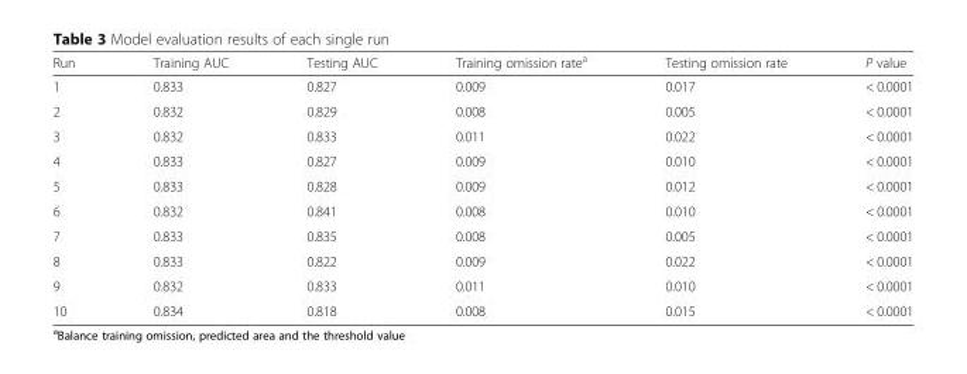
<table><thead><tr><td>Run</td><td>Training AUC</td><td>Testing AUC</td><td>Training omission rate<sup>a</sup></td><td>Testing omission rate</td><td>P value</td></tr></thead><tbody><tr><td>1</td><td>0.833</td><td>0.827</td><td>0.009</td><td>0.017</td><td>&lt; 0.0001</td></tr><tr><td>2</td><td>0.832</td><td>0.829</td><td>0.008</td><td>0.005</td><td>&lt; 0.0001</td></tr><tr><td>3</td><td>0.832</td><td>0.833</td><td>0.011</td><td>0.022</td><td>&lt; 0.0001</td></tr><tr><td>4</td><td>0.833</td><td>0.827</td><td>0.009</td><td>0.010</td><td>&lt; 0.0001</td></tr><tr><td>5</td><td>0.833</td><td>0.828</td><td>0.009</td><td>0.012</td><td>&lt; 0.0001</td></tr><tr><td>6</td><td>0.832</td><td>0.841</td><td>0.008</td><td>0.010</td><td>&lt; 0.0001</td></tr><tr><td>7</td><td>0.833</td><td>0.835</td><td>0.008</td><td>0.005</td><td>&lt; 0.0001</td></tr><tr><td>8</td><td>0.833</td><td>0.822</td><td>0.009</td><td>0.022</td><td>&lt; 0.0001</td></tr><tr><td>9</td><td>0.832</td><td>0.833</td><td>0.011</td><td>0.010</td><td>&lt; 0.0001</td></tr><tr><td>10</td><td>0.834</td><td>0.818</td><td>0.008</td><td>0.015</td><td>&lt; 0.0001</td></tr></tbody></table>